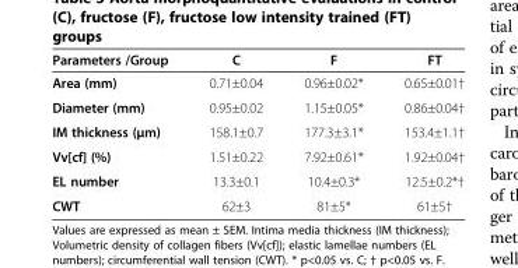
<table><thead><tr><td>Parameters /Group</td><td>C</td><td>F</td><td>FT</td></tr></thead><tbody><tr><td>Area (mm)</td><td>0.71±0.04</td><td>0.96±0.02*</td><td>0.65±0.01†</td></tr><tr><td>Diameter (mm)</td><td>0.95±0.02</td><td>1.15±0.05*</td><td>0.86±0.04†</td></tr><tr><td>IM thickness (μm)</td><td>158.1±0.7</td><td>177.3±3.1*</td><td>153.4±1.1†</td></tr><tr><td>Vv[cf] (%)</td><td>1.51±0.22</td><td>7.92±0.61*</td><td>1.92±0.04†</td></tr><tr><td>EL number</td><td>13.3±0.1</td><td>10.4±0.3*</td><td>12.5±0.2*†</td></tr><tr><td>CWT</td><td>62±3</td><td>81±5*</td><td>61±5†</td></tr></tbody></table>